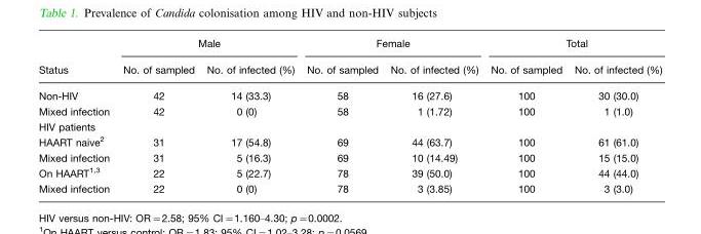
<table><thead><tr><td rowspan="2">Status</td><td colspan="2">Male</td><td colspan="2">Female</td><td colspan="2">Total</td></tr><tr><td>No. of sampled</td><td>No. of infected (%)</td><td>No. of sampled</td><td>No. of infected (%)</td><td>No. of sampled</td><td>No. of infected (%)</td></tr></thead><tbody><tr><td>Non-HIV</td><td>42</td><td>14 (33.3)</td><td>58</td><td>16 (27.6)</td><td>100</td><td>30 (30.0)</td></tr><tr><td>Mixed infection</td><td>42</td><td>0 (0)</td><td>58</td><td>1 (1.72)</td><td>100</td><td>1 (1.0)</td></tr><tr><td colspan="7">HIV patients</td></tr><tr><td>HAART naive<sup>2</sup></td><td>31</td><td>17 (54.8)</td><td>69</td><td>44 (63.7)</td><td>100</td><td>61 (61.0)</td></tr><tr><td>Mixed infection</td><td>31</td><td>5 (16.3)</td><td>69</td><td>10 (14.49)</td><td>100</td><td>15 (15.0)</td></tr><tr><td>On HAART<sup>1</sup>,<sup>3</sup></td><td>22</td><td>5 (22.7)</td><td>78</td><td>39 (50.0)</td><td>100</td><td>44 (44.0)</td></tr><tr><td>Mixed infection</td><td>22</td><td>0 (0)</td><td>78</td><td>3 (3.85)</td><td>100</td><td>3 (3.0)</td></tr></tbody></table>